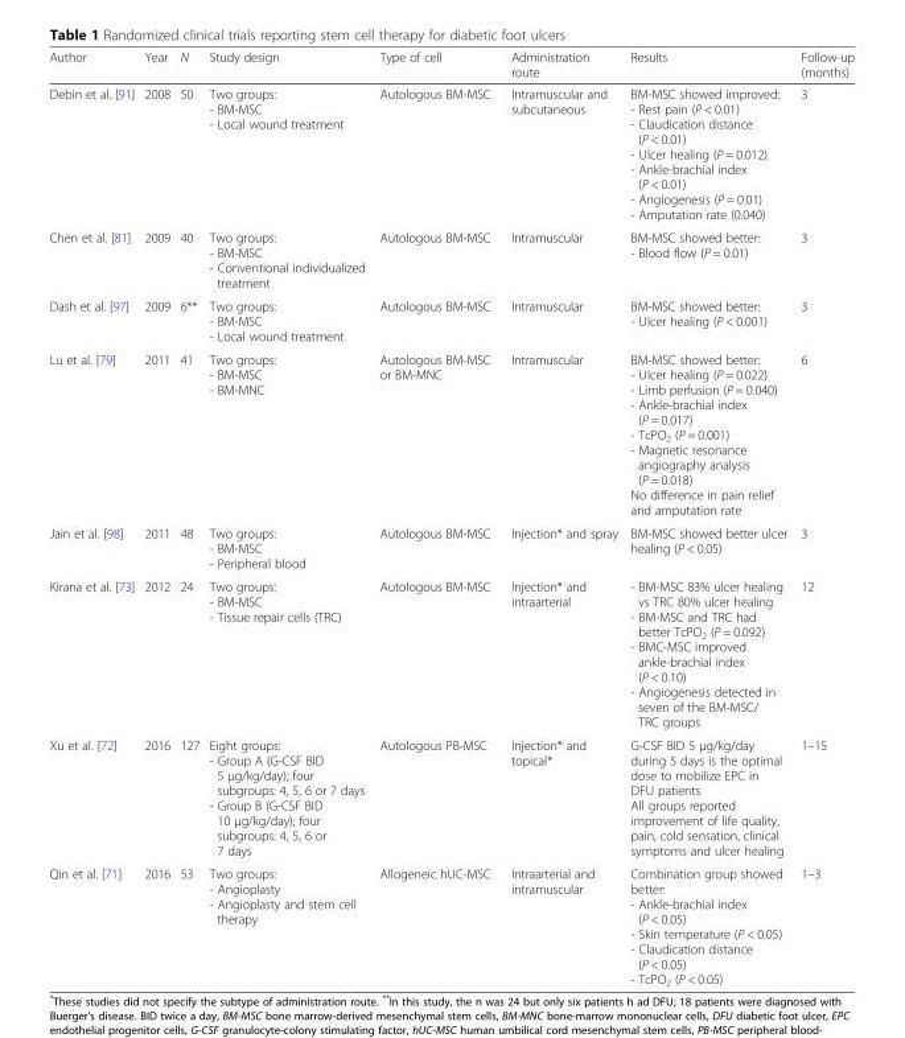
<table><thead><tr><td>Author</td><td>Year</td><td>N</td><td>Study design</td><td>Type of cell</td><td>Administration route</td><td>Results</td><td>Follow-up (months)</td></tr></thead><tbody><tr><td>Debin et al. [91]</td><td>2008</td><td>50</td><td>Two groups: - BM-MSC - Local wound treatment</td><td>Autologous BM-MSC</td><td>Intramuscular and subcutaneous</td><td>BM-MSC showed improved: - Rest pain (P &lt; 0.01) - Claudication distance (P &lt; 0.01) - Ulcer healing (P = 0.012) - Ankle-brachial index (P &lt; 0.01) - Angiogenesis (P = 0.01) - Amputation rate (0.040)</td><td>3</td></tr><tr><td>Chen et al. [81]</td><td>2009</td><td>40</td><td>Two groups: - BM-MSC - Conventional individualized treatment</td><td>Autologous BM-MSC</td><td>Intramuscular</td><td>BM-MSC showed better: - Blood flow (P = 0.01)</td><td>3</td></tr><tr><td>Dash et al. [97]</td><td>2009</td><td>6**</td><td>Two groups: - BM-MSC - Local wound treatment</td><td>Autologous BM-MSC</td><td>Intramuscular</td><td>BM-MSC showed better: - Ulcer healing (P &lt; 0.001)</td><td>3</td></tr><tr><td>Lu et al. [79]</td><td>2011</td><td>41</td><td>Two groups: - BM-MSC - BM-MNC</td><td>Autologous BM-MSC or BM-MNC</td><td>Intramuscular</td><td>BM-MSC showed better: - Ulcer healing (P = 0.022) - Limb perfusion (P = 0.040) - Ankle-brachial index (P = 0.017) - TcPO<sub>2</sub> (P = 0.001) - Magnetic resonance angiography analysis (P = 0.018) No difference in pain relief and amputation rate</td><td>6</td></tr><tr><td>Jain et al. [98]</td><td>2011</td><td>48</td><td>Two groups: - BM-MSC - Peripheral blood</td><td>Autologous BM-MSC</td><td>Injection* and spray</td><td>BM-MSC showed better ulcer healing (P &lt; 0.05)</td><td>3</td></tr><tr><td>Kirana et al. [73]</td><td>2012</td><td>24</td><td>Two groups: - BM-MSC - Tissue repair cells (TRC)</td><td>Autologous BM-MSC</td><td>Injection* and intraarterial</td><td>- BM-MSC 83% ulcer healing vs TRC 80% ulcer healing - BM-MSC and TRC had better TcPO<sub>2</sub> (P = 0.092) - BMC-MSC improved ankle-brachial index (P &lt; 0.10) - Angiogenesis detected in seven of the BM-MSC/ TRC groups</td><td>12</td></tr><tr><td>Xu et al. [72]</td><td>2016</td><td>127</td><td>Eight groups: - Group A (G-CSF BID 5 μg/kg/day); four subgroups: 4, 5, 6 or 7 days - Group B (G-CSF BID 10 μg/kg/day); four subgroups: 4, 5, 6 or 7 days</td><td>Autologous PB-MSC</td><td>Injection* and topical*</td><td>G-CSF BID 5 μg/kg/day during 5 days is the optimal dose to mobilize EPC in DFU patients All groups reported improvement of life quality, pain, cold sensation, clinical symptoms and ulcer healing</td><td>1–15</td></tr><tr><td>Qin et al. [71]</td><td>2016</td><td>53</td><td>Two groups: - Angioplasty - Angioplasty and stem cell therapy</td><td>Allogeneic hUC-MSC</td><td>Intraarterial and intramuscular</td><td>Combination group showed better: - Ankle-brachial index (P &lt; 0.05) - Skin temperature (P &lt; 0.05) - Claudication distance (P &lt; 0.05) - TcPO<sub>2</sub> (P &lt; 0.05)</td><td>1–3</td></tr></tbody></table>